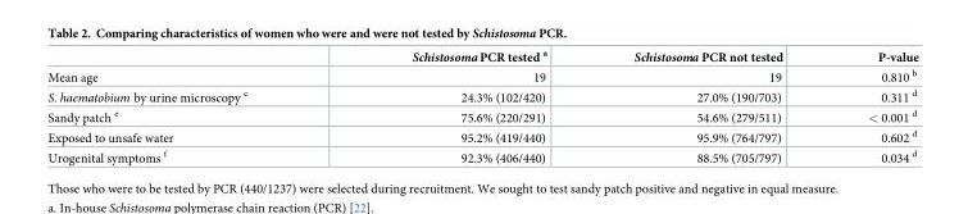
<table><thead><tr><td></td><td>Schistosoma PCR tested <sup>a</sup></td><td>Schistosoma PCR not tested</td><td>P-value</td></tr></thead><tbody><tr><td>Mean age</td><td>19</td><td>19</td><td>0.810 <sup>b</sup></td></tr><tr><td>S. haematobium by urine microscopy <sup>c</sup></td><td>24.3% (102/420)</td><td>27.0% (190/703)</td><td>0.311 <sup>d</sup></td></tr><tr><td>Sandy patch <sup>e</sup></td><td>75.6% (220/291)</td><td>54.6% (279/511)</td><td>&lt; 0.001 <sup>d</sup></td></tr><tr><td>Exposed to unsafe water</td><td>95.2% (419/440)</td><td>95.9% (764/797)</td><td>0.602 <sup>d</sup></td></tr><tr><td>Urogenital symptoms <sup>f</sup></td><td>92.3% (406/440)</td><td>88.5% (705/797)</td><td>0.034 <sup>d</sup></td></tr></tbody></table>